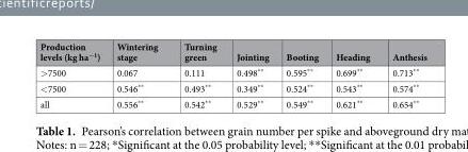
<table><thead><tr><td>Production levels (kg ha<sup>−1</sup>)</td><td>Wintering stage</td><td>Turning green</td><td>Jointing</td><td>Booting</td><td>Heading</td><td>Anthesis</td></tr></thead><tbody><tr><td>&gt;7500</td><td>0.067</td><td>0.111</td><td>0.498**</td><td>0.595**</td><td>0.699**</td><td>0.713**</td></tr><tr><td>&lt;7500</td><td>0.546**</td><td>0.493**</td><td>0.349**</td><td>0.524**</td><td>0.543**</td><td>0.574**</td></tr><tr><td>all</td><td>0.556**</td><td>0.542**</td><td>0.529**</td><td>0.549**</td><td>0.621**</td><td>0.654**</td></tr></tbody></table>